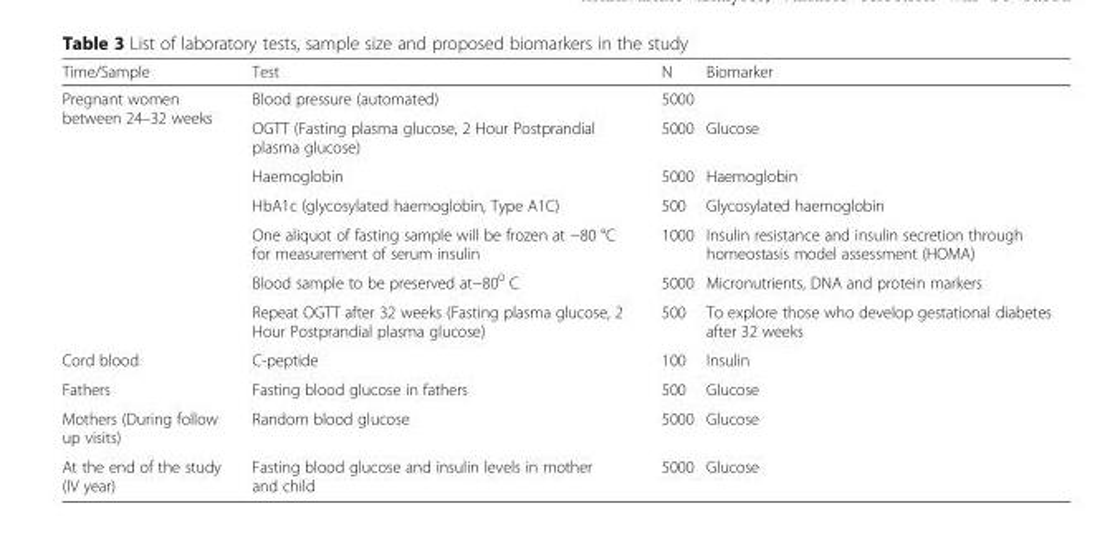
<table><thead><tr><td>Time/Sample</td><td>Test</td><td>N</td><td>Biomarker</td></tr></thead><tbody><tr><td rowspan="7">Pregnant women between 24–32 weeks</td><td>Blood pressure (automated)</td><td>5000</td><td></td></tr><tr><td>OGTT (Fasting plasma glucose, 2 Hour Postprandial plasma glucose)</td><td>5000</td><td>Glucose</td></tr><tr><td>Haemoglobin</td><td>5000</td><td>Haemoglobin</td></tr><tr><td>HbA1c (glycosylated haemoglobin, Type A1C)</td><td>500</td><td>Glycosylated haemoglobin</td></tr><tr><td>One aliquot of fasting sample will be frozen at −80 °C for measurement of serum insulin</td><td>1000</td><td>Insulin resistance and insulin secretion through homeostasis model assessment (HOMA)</td></tr><tr><td>Blood sample to be preserved at−80<sup>0</sup> C</td><td>5000</td><td>Micronutrients, DNA and protein markers</td></tr><tr><td>Repeat OGTT after 32 weeks (Fasting plasma glucose, 2 Hour Postprandial plasma glucose)</td><td>500</td><td>To explore those who develop gestational diabetes after 32 weeks</td></tr><tr><td>Cord blood</td><td>C-peptide</td><td>100</td><td>Insulin</td></tr><tr><td>Fathers</td><td>Fasting blood glucose in fathers</td><td>500</td><td>Glucose</td></tr><tr><td>Mothers (During follow up visits)</td><td>Random blood glucose</td><td>5000</td><td>Glucose</td></tr><tr><td>At the end of the study (IV year)</td><td>Fasting blood glucose and insulin levels in mother and child</td><td>5000</td><td>Glucose</td></tr></tbody></table>